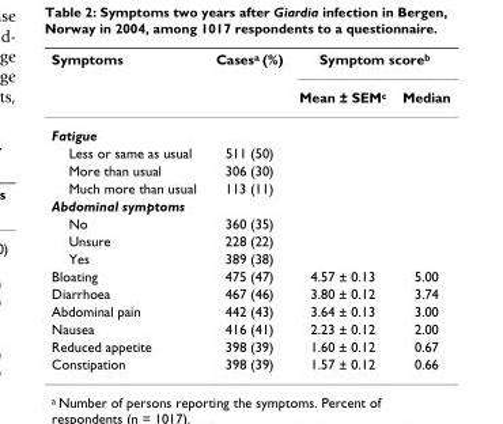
<table><thead><tr><td rowspan="2">Symptoms</td><td rowspan="2">Cases<sup>a</sup> (%)</td><td colspan="2">Symptom score<sup>b</sup></td></tr><tr><td>Mean ± SEM<sup>c</sup></td><td>Median</td></tr></thead><tbody><tr><td colspan="4">Fatigue</td></tr><tr><td>Less or same as usual</td><td>511 (50)</td><td></td><td></td></tr><tr><td>More than usual</td><td>306 (30)</td><td></td><td></td></tr><tr><td>Much more than usual</td><td>113 (11)</td><td></td><td></td></tr><tr><td colspan="4">Abdominal symptoms</td></tr><tr><td>No</td><td>360 (35)</td><td></td><td></td></tr><tr><td>Unsure</td><td>228 (22)</td><td></td><td></td></tr><tr><td>Yes</td><td>389 (38)</td><td></td><td></td></tr><tr><td>Bloating</td><td>475 (47)</td><td>4.57 ± 0.13</td><td>5.00</td></tr><tr><td>Diarrhoea</td><td>467 (46)</td><td>3.80 ± 0.12</td><td>3.74</td></tr><tr><td>Abdominal pain</td><td>442 (43)</td><td>3.64 ± 0.13</td><td>3.00</td></tr><tr><td>Nausea</td><td>416 (41)</td><td>2.23 ± 0.12</td><td>2.00</td></tr><tr><td>Reduced appetite</td><td>398 (39)</td><td>1.60 ± 0.12</td><td>0.67</td></tr><tr><td>Constipation</td><td>398 (39)</td><td>1.57 ± 0.12</td><td>0.66</td></tr></tbody></table>